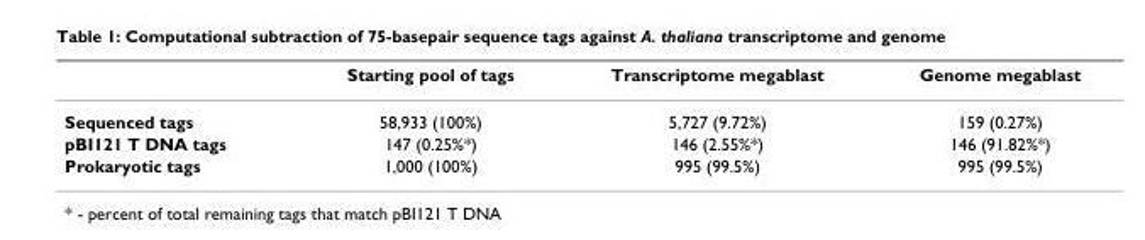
<table><thead><tr><td></td><td>Starting pool of tags</td><td>Transcriptome megablast</td><td>Genome megablast</td></tr></thead><tbody><tr><td>Sequenced tags</td><td>58,933 (100%)</td><td>5,727 (9.72%)</td><td>159 (0.27%)</td></tr><tr><td>pBI121 T DNA tags</td><td>147 (0.25%*)</td><td>146 (2.55%*)</td><td>146 (91.82%*)</td></tr><tr><td>Prokaryotic tags</td><td>1,000 (100%)</td><td>995 (99.5%)</td><td>995 (99.5%)</td></tr></tbody></table>